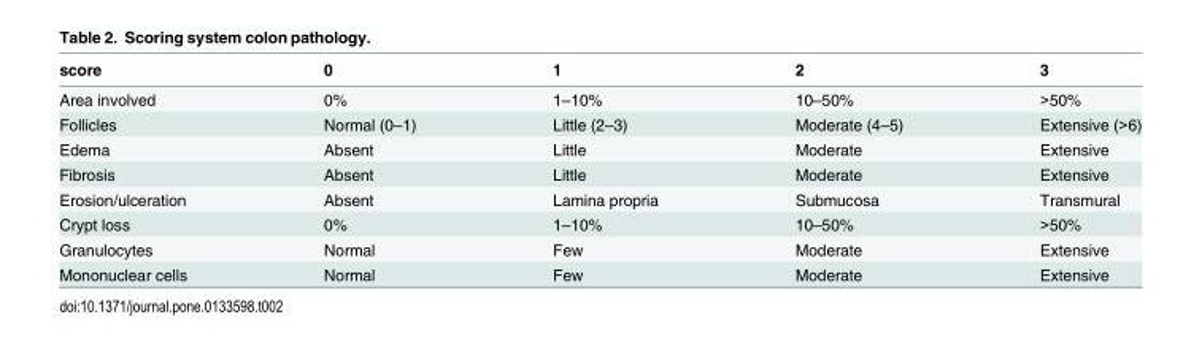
<table><thead><tr><td>score</td><td>0</td><td>1</td><td>2</td><td>3</td></tr></thead><tbody><tr><td>Area involved</td><td>0%</td><td>1–10%</td><td>10–50%</td><td>&gt;50%</td></tr><tr><td>Follicles</td><td>Normal (0–1)</td><td>Little (2–3)</td><td>Moderate (4–5)</td><td>Extensive (&gt;6)</td></tr><tr><td>Edema</td><td>Absent</td><td>Little</td><td>Moderate</td><td>Extensive</td></tr><tr><td>Fibrosis</td><td>Absent</td><td>Little</td><td>Moderate</td><td>Extensive</td></tr><tr><td>Erosion/ulceration</td><td>Absent</td><td>Lamina propria</td><td>Submucosa</td><td>Transmural</td></tr><tr><td>Crypt loss</td><td>0%</td><td>1–10%</td><td>10–50%</td><td>&gt;50%</td></tr><tr><td>Granulocytes</td><td>Normal</td><td>Few</td><td>Moderate</td><td>Extensive</td></tr><tr><td>Mononuclear cells</td><td>Normal</td><td>Few</td><td>Moderate</td><td>Extensive</td></tr></tbody></table>